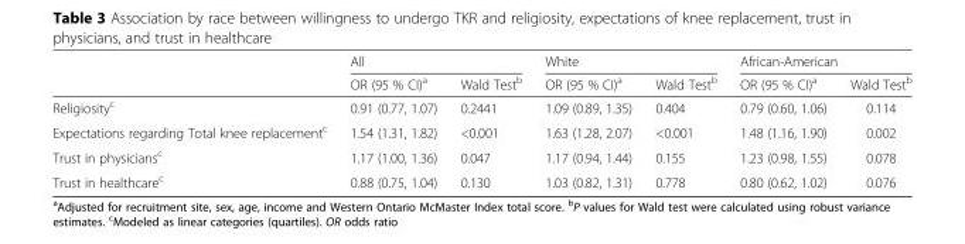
<table><thead><tr><td rowspan="2"></td><td colspan="2">All</td><td colspan="2">White</td><td colspan="2">African-American</td></tr><tr><td>OR (95 % CI)<sup>a</sup></td><td>Wald Test<sup>b</sup></td><td>OR (95 % CI)<sup>a</sup></td><td>Wald Test<sup>b</sup></td><td>OR (95 % CI)<sup>a</sup></td><td>Wald Test<sup>b</sup></td></tr></thead><tbody><tr><td>Religiosity<sup>c</sup></td><td>0.91 (0.77, 1.07)</td><td>0.2441</td><td>1.09 (0.89, 1.35)</td><td>0.404</td><td>0.79 (0.60, 1.06)</td><td>0.114</td></tr><tr><td>Expectations regarding Total knee replacement<sup>c</sup></td><td>1.54 (1.31, 1.82)</td><td>&lt;0.001</td><td>1.63 (1.28, 2.07)</td><td>&lt;0.001</td><td>1.48 (1.16, 1.90)</td><td>0.002</td></tr><tr><td>Trust in physicians<sup>c</sup></td><td>1.17 (1.00, 1.36)</td><td>0.047</td><td>1.17 (0.94, 1.44)</td><td>0.155</td><td>1.23 (0.98, 1.55)</td><td>0.078</td></tr><tr><td>Trust in healthcare<sup>c</sup></td><td>0.88 (0.75, 1.04)</td><td>0.130</td><td>1.03 (0.82, 1.31)</td><td>0.778</td><td>0.80 (0.62, 1.02)</td><td>0.076</td></tr></tbody></table>